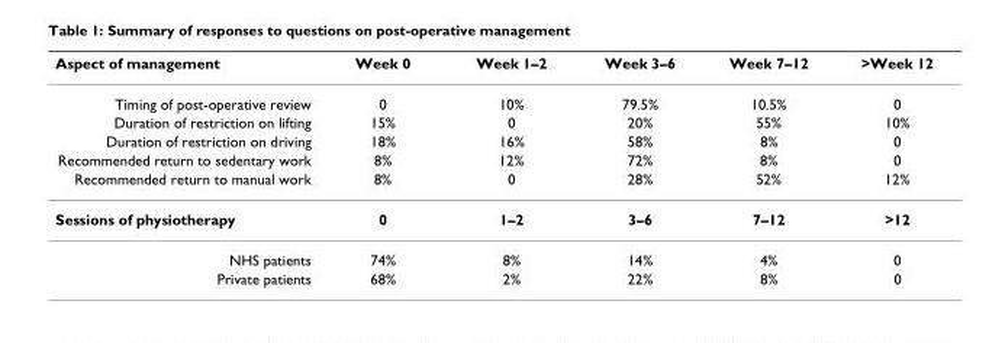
<table><thead><tr><td>Aspect of management</td><td>Week 0</td><td>Week 1–2</td><td>Week 3–6</td><td>Week 7–12</td><td>&gt;Week 12</td></tr></thead><tbody><tr><td>Timing of post-operative review</td><td>0</td><td>10%</td><td>79.5%</td><td>10.5%</td><td>0</td></tr><tr><td>Duration of restriction on lifting</td><td>15%</td><td>0</td><td>20%</td><td>55%</td><td>10%</td></tr><tr><td>Duration of restriction on driving</td><td>18%</td><td>16%</td><td>58%</td><td>8%</td><td>0</td></tr><tr><td>Recommended return to sedentary work</td><td>8%</td><td>12%</td><td>72%</td><td>8%</td><td>0</td></tr><tr><td>Recommended return to manual work</td><td>8%</td><td>0</td><td>28%</td><td>52%</td><td>12%</td></tr><tr><td>Sessions of physiotherapy</td><td>0</td><td>1–2</td><td>3–6</td><td>7–12</td><td>&gt;12</td></tr><tr><td>NHS patients</td><td>74%</td><td>8%</td><td>14%</td><td>4%</td><td>0</td></tr><tr><td>Private patients</td><td>68%</td><td>2%</td><td>22%</td><td>8%</td><td>0</td></tr></tbody></table>